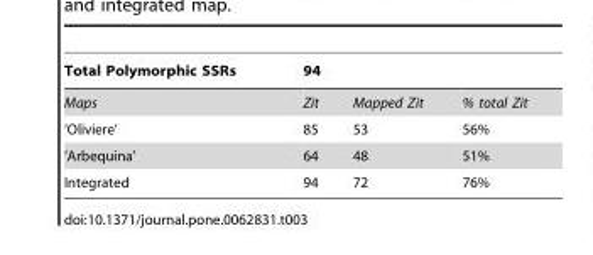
<table><thead><tr><td>Total Polymorphic SSRs</td><td>94</td><td></td><td></td></tr></thead><tbody><tr><td>Maps</td><td>Zit</td><td>Mapped Zit</td><td>% total Zit</td></tr><tr><td>‘Oliviere’</td><td>85</td><td>53</td><td>56%</td></tr><tr><td>‘Arbequina’</td><td>64</td><td>48</td><td>51%</td></tr><tr><td>Integrated</td><td>94</td><td>72</td><td>76%</td></tr></tbody></table>